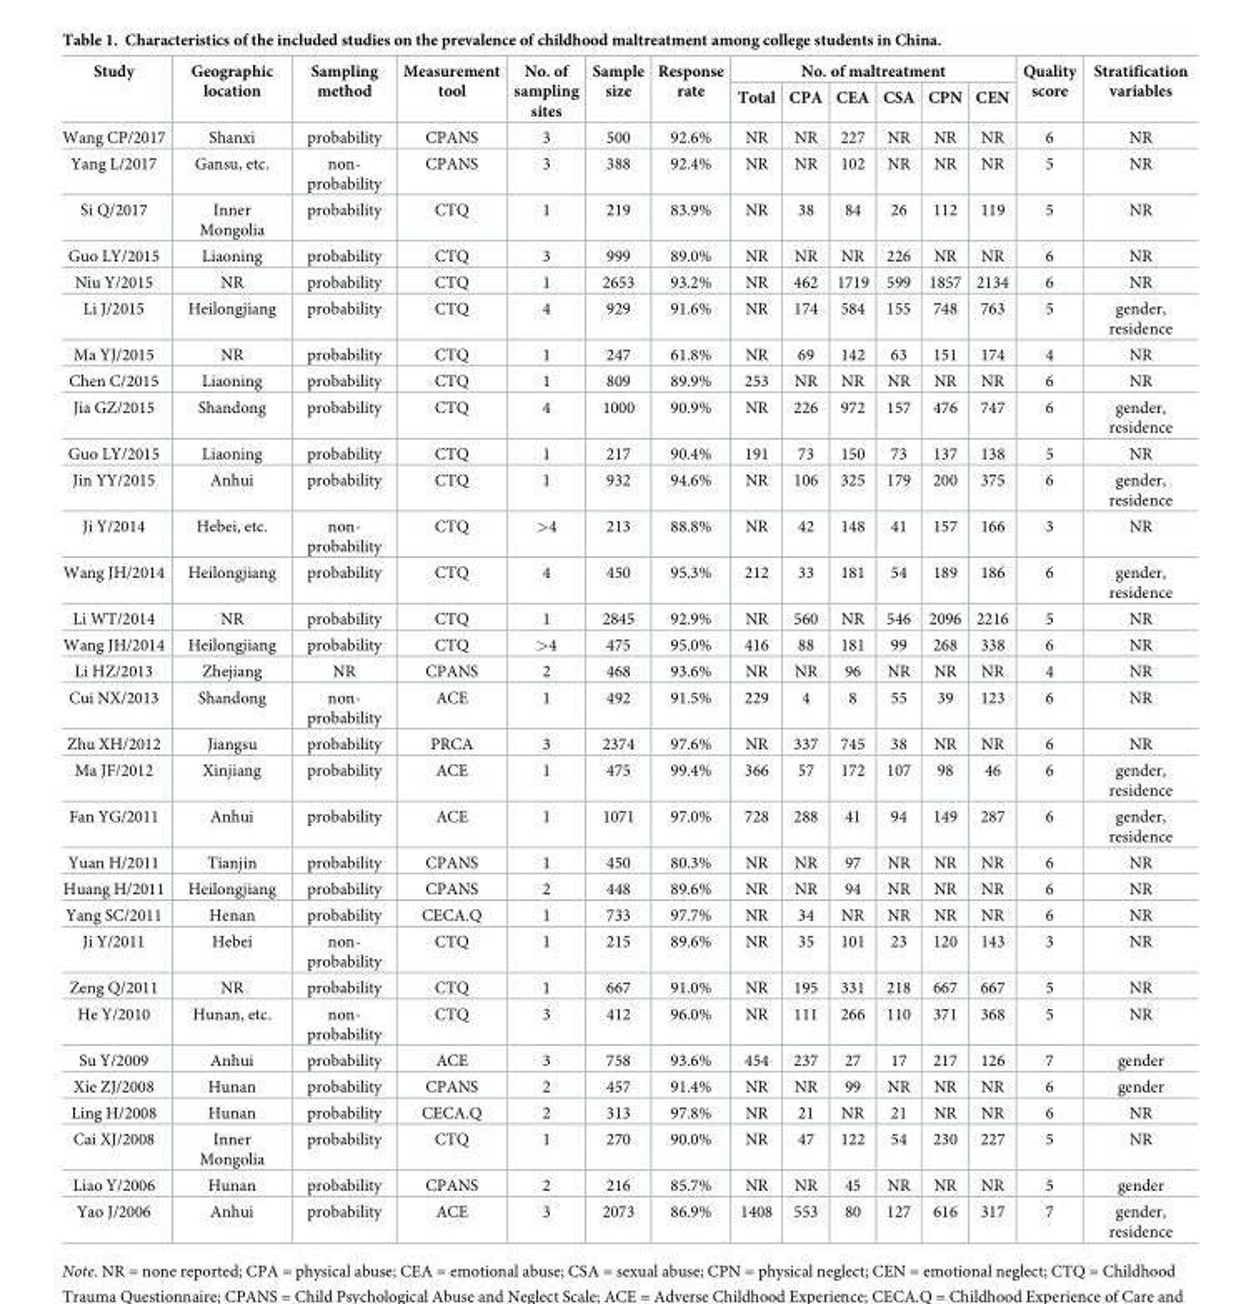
<table><thead><tr><td rowspan="2">Study</td><td rowspan="2">Geographic location</td><td rowspan="2">Sampling method</td><td rowspan="2">Measurement tool</td><td rowspan="2">No. of sampling sites</td><td rowspan="2">Sample size</td><td rowspan="2">Response rate</td><td colspan="6">No. of maltreatment</td><td rowspan="2">Quality score</td><td rowspan="2">Stratification variables</td></tr><tr><td>Total</td><td>CPA</td><td>CEA</td><td>CSA</td><td>CPN</td><td>CEN</td></tr></thead><tbody><tr><td>Wang CP/2017</td><td>Shanxi</td><td>probability</td><td>CPANS</td><td>3</td><td>500</td><td>92.6%</td><td>NR</td><td>NR</td><td>227</td><td>NR</td><td>NR</td><td>NR</td><td>6</td><td>NR</td></tr><tr><td>Yang L/2017</td><td>Gansu, etc.</td><td>non- probability</td><td>CPANS</td><td>3</td><td>388</td><td>92.4%</td><td>NR</td><td>NR</td><td>102</td><td>NR</td><td>NR</td><td>NR</td><td>5</td><td>NR</td></tr><tr><td>Si Q/2017</td><td>Inner Mongolia</td><td>probability</td><td>CTQ</td><td>1</td><td>219</td><td>83.9%</td><td>NR</td><td>38</td><td>84</td><td>26</td><td>112</td><td>119</td><td>5</td><td>NR</td></tr><tr><td>Guo LY/2015</td><td>Liaoning</td><td>probability</td><td>CTQ</td><td>3</td><td>999</td><td>89.0%</td><td>NR</td><td>NR</td><td>NR</td><td>226</td><td>NR</td><td>NR</td><td>6</td><td>NR</td></tr><tr><td>Niu Y/2015</td><td>NR</td><td>probability</td><td>CTQ</td><td>1</td><td>2653</td><td>93.2%</td><td>NR</td><td>462</td><td>1719</td><td>599</td><td>1857</td><td>2134</td><td>6</td><td>NR</td></tr><tr><td>Li J/2015</td><td>Heilongjiang</td><td>probability</td><td>CTQ</td><td>4</td><td>929</td><td>91.6%</td><td>NR</td><td>174</td><td>584</td><td>155</td><td>748</td><td>763</td><td>5</td><td>gender, residence</td></tr><tr><td>Ma YJ/2015</td><td>NR</td><td>probability</td><td>CTQ</td><td>1</td><td>247</td><td>61.8%</td><td>NR</td><td>69</td><td>142</td><td>63</td><td>151</td><td>174</td><td>4</td><td>NR</td></tr><tr><td>Chen C/2015</td><td>Liaoning</td><td>probability</td><td>CTQ</td><td>1</td><td>809</td><td>89.9%</td><td>253</td><td>NR</td><td>NR</td><td>NR</td><td>NR</td><td>NR</td><td>6</td><td>NR</td></tr><tr><td>Jia GZ/2015</td><td>Shandong</td><td>probability</td><td>CTQ</td><td>4</td><td>1000</td><td>90.9%</td><td>NR</td><td>226</td><td>972</td><td>157</td><td>476</td><td>747</td><td>6</td><td>gender, residence</td></tr><tr><td>Guo LY/2015</td><td>Liaoning</td><td>probability</td><td>CTQ</td><td>1</td><td>217</td><td>90.4%</td><td>191</td><td>73</td><td>150</td><td>73</td><td>137</td><td>138</td><td>5</td><td>NR</td></tr><tr><td>Jin YY/2015</td><td>Anhui</td><td>probability</td><td>CTQ</td><td>1</td><td>932</td><td>94.6%</td><td>NR</td><td>106</td><td>325</td><td>179</td><td>200</td><td>375</td><td>6</td><td>gender, residence</td></tr><tr><td>Ji Y/2014</td><td>Hebei, etc.</td><td>non- probability</td><td>CTQ</td><td>&gt;4</td><td>213</td><td>88.8%</td><td>NR</td><td>42</td><td>148</td><td>41</td><td>157</td><td>166</td><td>3</td><td>NR</td></tr><tr><td>Wang JH/2014</td><td>Heilongjiang</td><td>probability</td><td>CTQ</td><td>4</td><td>450</td><td>95.3%</td><td>212</td><td>33</td><td>181</td><td>54</td><td>189</td><td>186</td><td>6</td><td>gender, residence</td></tr><tr><td>Li WT/2014</td><td>NR</td><td>probability</td><td>CTQ</td><td>1</td><td>2845</td><td>92.9%</td><td>NR</td><td>560</td><td>NR</td><td>546</td><td>2096</td><td>2216</td><td>5</td><td>NR</td></tr><tr><td>Wang JH/2014</td><td>Heilongjiang</td><td>probability</td><td>CTQ</td><td>&gt;4</td><td>475</td><td>95.0%</td><td>416</td><td>88</td><td>181</td><td>99</td><td>268</td><td>338</td><td>6</td><td>NR</td></tr><tr><td>Li HZ/2013</td><td>Zhejiang</td><td>NR</td><td>CPANS</td><td>2</td><td>468</td><td>93.6%</td><td>NR</td><td>NR</td><td>96</td><td>NR</td><td>NR</td><td>NR</td><td>4</td><td>NR</td></tr><tr><td>Cui NX/2013</td><td>Shandong</td><td>non- probability</td><td>ACE</td><td>1</td><td>492</td><td>91.5%</td><td>229</td><td>4</td><td>8</td><td>55</td><td>39</td><td>123</td><td>6</td><td>NR</td></tr><tr><td>Zhu XH/2012</td><td>Jiangsu</td><td>probability</td><td>PRCA</td><td>3</td><td>2374</td><td>97.6%</td><td>NR</td><td>337</td><td>745</td><td>38</td><td>NR</td><td>NR</td><td>6</td><td>NR</td></tr><tr><td>Ma JF/2012</td><td>Xinjiang</td><td>probability</td><td>ACE</td><td>1</td><td>475</td><td>99.4%</td><td>366</td><td>57</td><td>172</td><td>107</td><td>98</td><td>46</td><td>6</td><td>gender, residence</td></tr><tr><td>Fan YG/2011</td><td>Anhui</td><td>probability</td><td>ACE</td><td>1</td><td>1071</td><td>97.0%</td><td>728</td><td>288</td><td>41</td><td>94</td><td>149</td><td>287</td><td>6</td><td>gender, residence</td></tr><tr><td>Yuan H/2011</td><td>Tianjin</td><td>probability</td><td>CPANS</td><td>1</td><td>450</td><td>80.3%</td><td>NR</td><td>NR</td><td>97</td><td>NR</td><td>NR</td><td>NR</td><td>6</td><td>NR</td></tr><tr><td>Huang H/2011</td><td>Heilongjiang</td><td>probability</td><td>CPANS</td><td>2</td><td>448</td><td>89.6%</td><td>NR</td><td>NR</td><td>94</td><td>NR</td><td>NR</td><td>NR</td><td>6</td><td>NR</td></tr><tr><td>Yang SC/2011</td><td>Henan</td><td>probability</td><td>CECA.Q</td><td>1</td><td>733</td><td>97.7%</td><td>NR</td><td>34</td><td>NR</td><td>NR</td><td>NR</td><td>NR</td><td>6</td><td>NR</td></tr><tr><td>Ji Y/2011</td><td>Hebei</td><td>non- probability</td><td>CTQ</td><td>1</td><td>215</td><td>89.6%</td><td>NR</td><td>35</td><td>101</td><td>23</td><td>120</td><td>143</td><td>3</td><td>NR</td></tr><tr><td>Zeng Q/2011</td><td>NR</td><td>probability</td><td>CTQ</td><td>1</td><td>667</td><td>91.0%</td><td>NR</td><td>195</td><td>331</td><td>218</td><td>667</td><td>667</td><td>5</td><td>NR</td></tr><tr><td>He Y/2010</td><td>Hunan, etc.</td><td>non- probability</td><td>CTQ</td><td>3</td><td>412</td><td>96.0%</td><td>NR</td><td>111</td><td>266</td><td>110</td><td>371</td><td>368</td><td>5</td><td>NR</td></tr><tr><td>Su Y/2009</td><td>Anhui</td><td>probability</td><td>ACE</td><td>3</td><td>758</td><td>93.6%</td><td>454</td><td>237</td><td>27</td><td>17</td><td>217</td><td>126</td><td>7</td><td>gender</td></tr><tr><td>Xie ZJ/2008</td><td>Hunan</td><td>probability</td><td>CPANS</td><td>2</td><td>457</td><td>91.4%</td><td>NR</td><td>NR</td><td>99</td><td>NR</td><td>NR</td><td>NR</td><td>6</td><td>gender</td></tr><tr><td>Ling H/2008</td><td>Hunan</td><td>probability</td><td>CECA.Q</td><td>2</td><td>313</td><td>97.8%</td><td>NR</td><td>21</td><td>NR</td><td>21</td><td>NR</td><td>NR</td><td>6</td><td>NR</td></tr><tr><td>Cai XJ/2008</td><td>Inner Mongolia</td><td>probability</td><td>CTQ</td><td>1</td><td>270</td><td>90.0%</td><td>NR</td><td>47</td><td>122</td><td>54</td><td>230</td><td>227</td><td>5</td><td>NR</td></tr><tr><td>Liao Y/2006</td><td>Hunan</td><td>probability</td><td>CPANS</td><td>2</td><td>216</td><td>85.7%</td><td>NR</td><td>NR</td><td>45</td><td>NR</td><td>NR</td><td>NR</td><td>5</td><td>gender</td></tr><tr><td>Yao J/2006</td><td>Anhui</td><td>probability</td><td>ACE</td><td>3</td><td>2073</td><td>86.9%</td><td>1408</td><td>553</td><td>80</td><td>127</td><td>616</td><td>317</td><td>7</td><td>gender, residence</td></tr></tbody></table>